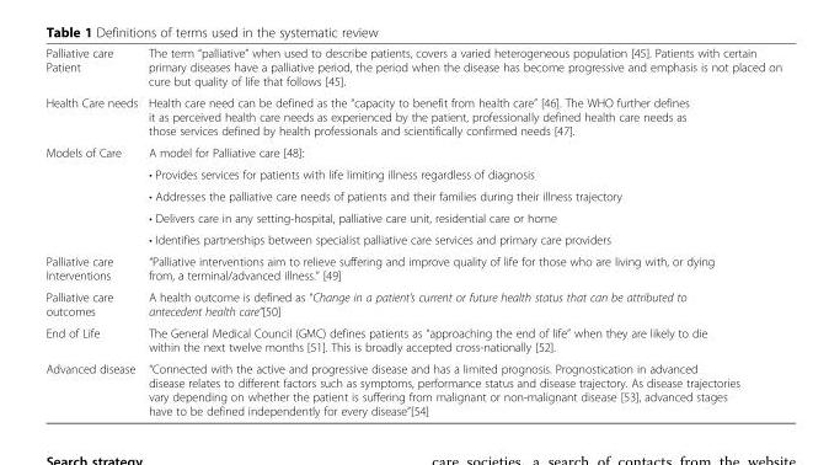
<table><tbody><tr><td>Palliative care Patient</td><td>The term “palliative” when used to describe patients, covers a varied heterogeneous population [45]. Patients with certain primary diseases have a palliative period, the period when the disease has become progressive and emphasis is not placed on cure but quality of life that follows [45].</td></tr><tr><td>Health Care needs</td><td>Health care need can be defined as the “capacity to benefit from health care” [46]. The WHO further defines it as perceived health care needs as experienced by the patient, professionally defined health care needs as those services defined by health professionals and scientifically confirmed needs [47].</td></tr><tr><td rowspan="5">Models of Care</td><td>A model for Palliative care [48]:</td></tr><tr><td>• Provides services for patients with life limiting illness regardless of diagnosis</td></tr><tr><td>• Addresses the palliative care needs of patients and their families during their illness trajectory</td></tr><tr><td>• Delivers care in any setting-hospital, palliative care unit, residential care or home</td></tr><tr><td>• Identifies partnerships between specialist palliative care services and primary care providers</td></tr><tr><td>Palliative care Interventions</td><td>“Palliative interventions aim to relieve suffering and improve quality of life for those who are living with, or dying from, a terminal/advanced illness.” [49]</td></tr><tr><td>Palliative care outcomes</td><td>A health outcome is defined as “Change in a patient’s current or future health status that can be attributed to antecedent health care”[50]</td></tr><tr><td>End of Life</td><td>The General Medical Council (GMC) defines patients as “approaching the end of life” when they are likely to die within the next twelve months [51]. This is broadly accepted cross-nationally [52].</td></tr><tr><td>Advanced disease</td><td>“Connected with the active and progressive disease and has a limited prognosis. Prognostication in advanced disease relates to different factors such as symptoms, performance status and disease trajectory. As disease trajectories vary depending on whether the patient is suffering from malignant or non-malignant disease [53], advanced stages have to be defined independently for every disease”[54]</td></tr></tbody></table>